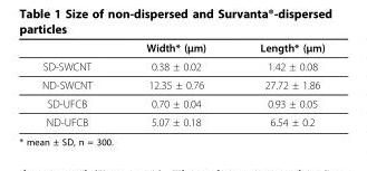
<table><thead><tr><td></td><td>Width* (μm)</td><td>Length* (μm)</td></tr></thead><tbody><tr><td>SD-SWCNT</td><td>0.38 ± 0.02</td><td>1.42 ± 0.08</td></tr><tr><td>ND-SWCNT</td><td>12.35 ± 0.76</td><td>27.72 ± 1.86</td></tr><tr><td>SD-UFCB</td><td>0.70 ± 0.04</td><td>0.93 ± 0.05</td></tr><tr><td>ND-UFCB</td><td>5.07 ± 0.18</td><td>6.54 ± 0.2</td></tr></tbody></table>